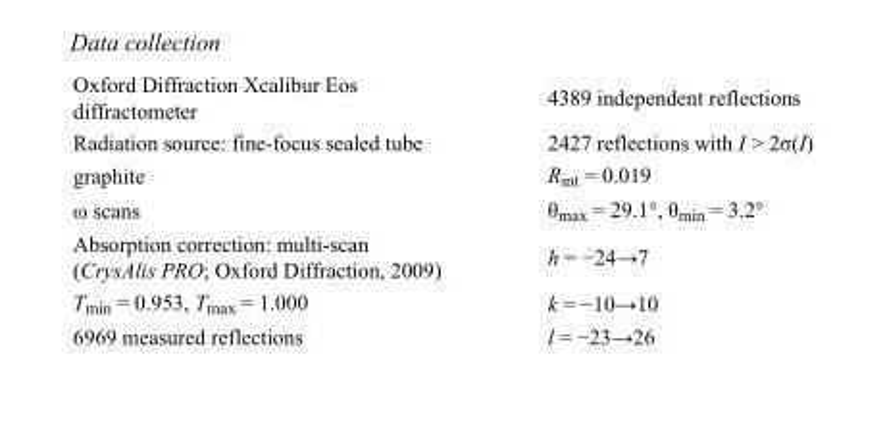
<table><tbody><tr><td>Oxford Diffraction Xcalibur Eos diffractometer</td><td>4389 independent reflections</td></tr><tr><td>Radiation source: fine-focus sealed tube</td><td>2427 reflections with I &gt; 2σ(I)</td></tr><tr><td>graphite</td><td>R<sub>int</sub> = 0.019</td></tr><tr><td>ω scans</td><td>θ<sub>max</sub> = 29.1°, θ<sub>min</sub> = 3.2°</td></tr><tr><td>Absorption correction: multi-scan (CrysAlis PRO; Oxford Diffraction, 2009)</td><td>h = −24→7</td></tr><tr><td>T<sub>min</sub> = 0.953, T<sub>max</sub> = 1.000</td><td>k = −10→10</td></tr><tr><td>6969 measured reflections</td><td>l = −23→26</td></tr></tbody></table>